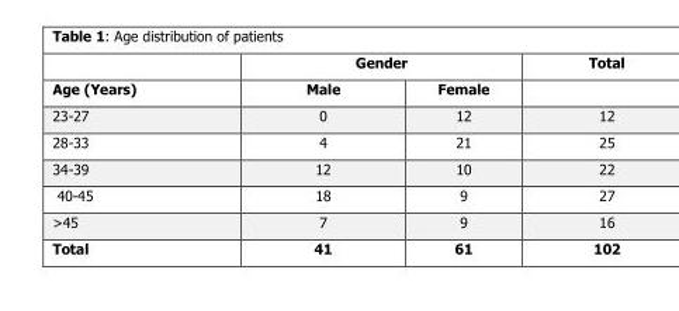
<table><thead><tr><td rowspan="2">Age (Years)</td><td colspan="2">Gender</td><td rowspan="2">Total</td></tr><tr><td>Male</td><td>Female</td></tr></thead><tbody><tr><td>23-27</td><td>0</td><td>12</td><td>12</td></tr><tr><td>28-33</td><td>4</td><td>21</td><td>25</td></tr><tr><td>34-39</td><td>12</td><td>10</td><td>22</td></tr><tr><td>40-45</td><td>18</td><td>9</td><td>27</td></tr><tr><td>&gt;45</td><td>7</td><td>9</td><td>16</td></tr><tr><td>Total</td><td>41</td><td>61</td><td>102</td></tr></tbody></table>